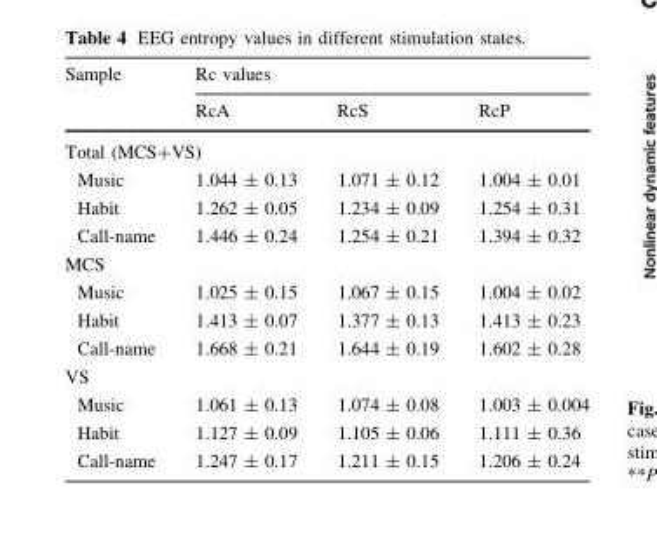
<table><thead><tr><td rowspan="2">Sample</td><td colspan="3">Rc values</td></tr><tr><td>RcA</td><td>RcS</td><td>RcP</td></tr></thead><tbody><tr><td colspan="4">Total (MCS+VS)</td></tr><tr><td>Music</td><td>1.044 ± 0.13</td><td>1.071 ± 0.12</td><td>1.004 ± 0.01</td></tr><tr><td>Habit</td><td>1.262 ± 0.05</td><td>1.234 ± 0.09</td><td>1.254 ± 0.31</td></tr><tr><td>Call-name</td><td>1.446 ± 0.24</td><td>1.254 ± 0.21</td><td>1.394 ± 0.32</td></tr><tr><td colspan="4">MCS</td></tr><tr><td>Music</td><td>1.025 ± 0.15</td><td>1.067 ± 0.15</td><td>1.004 ± 0.02</td></tr><tr><td>Habit</td><td>1.413 ± 0.07</td><td>1.377 ± 0.13</td><td>1.413 ± 0.23</td></tr><tr><td>Call-name</td><td>1.668 ± 0.21</td><td>1.644 ± 0.19</td><td>1.602 ± 0.28</td></tr><tr><td colspan="4">VS</td></tr><tr><td>Music</td><td>1.061 ± 0.13</td><td>1.074 ± 0.08</td><td>1.003 ± 0.004</td></tr><tr><td>Habit</td><td>1.127 ± 0.09</td><td>1.105 ± 0.06</td><td>1.111 ± 0.36</td></tr><tr><td>Call-name</td><td>1.247 ± 0.17</td><td>1.211 ± 0.15</td><td>1.206 ± 0.24</td></tr></tbody></table>